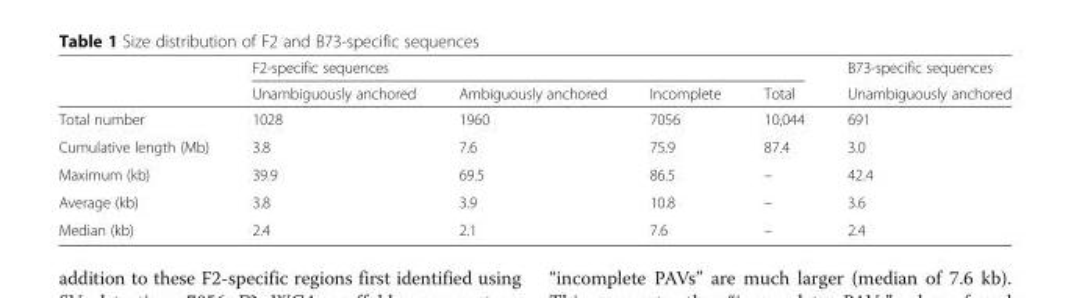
<table><thead><tr><td rowspan="2"></td><td colspan="4">F2-specific sequences</td><td rowspan="2">B73-specific sequences Unambiguously anchored</td></tr><tr><td>Unambiguously anchored</td><td>Ambiguously anchored</td><td>Incomplete</td><td>Total</td></tr></thead><tbody><tr><td>Total number</td><td>1028</td><td>1960</td><td>7056</td><td>10,044</td><td>691</td></tr><tr><td>Cumulative length (Mb)</td><td>3.8</td><td>7.6</td><td>75.9</td><td>87.4</td><td>3.0</td></tr><tr><td>Maximum (kb)</td><td>39.9</td><td>69.5</td><td>86.5</td><td>–</td><td>42.4</td></tr><tr><td>Average (kb)</td><td>3.8</td><td>3.9</td><td>10.8</td><td>–</td><td>3.6</td></tr><tr><td>Median (kb)</td><td>2.4</td><td>2.1</td><td>7.6</td><td>–</td><td>2.4</td></tr></tbody></table>